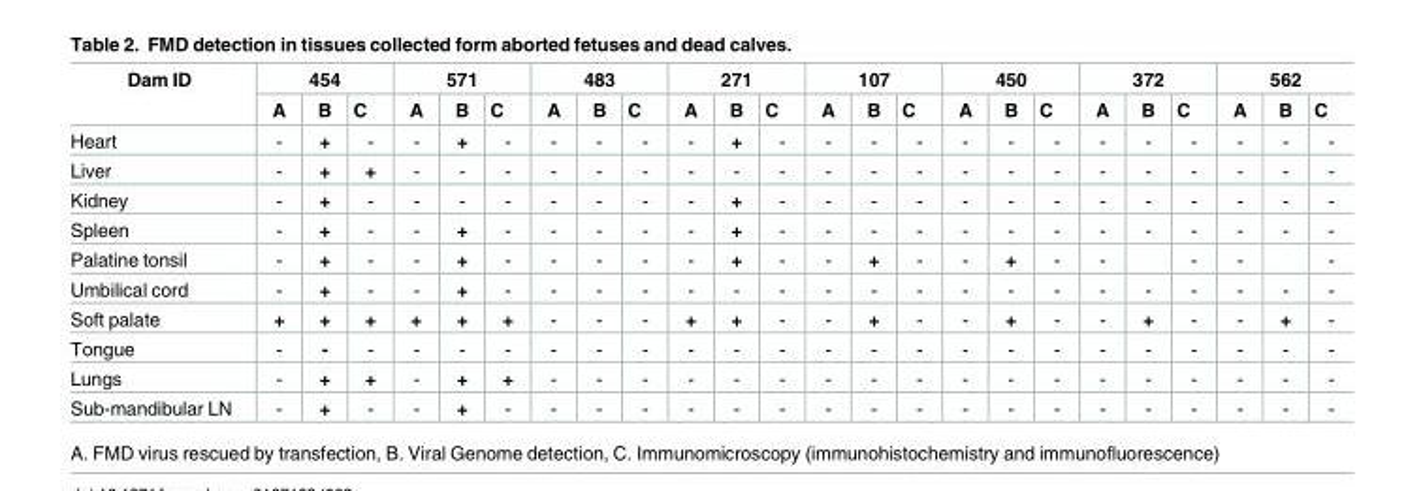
<table><thead><tr><td rowspan="2">Dam ID</td><td colspan="3">454</td><td colspan="3">571</td><td colspan="3">483</td><td colspan="3">271</td><td colspan="3">107</td><td colspan="3">450</td><td colspan="3">372</td><td colspan="3">562</td></tr><tr><td>A</td><td>B</td><td>C</td><td>A</td><td>B</td><td>C</td><td>A</td><td>B</td><td>C</td><td>A</td><td>B</td><td>C</td><td>A</td><td>B</td><td>C</td><td>A</td><td>B</td><td>C</td><td>A</td><td>B</td><td>C</td><td>A</td><td>B</td><td>C</td></tr></thead><tbody><tr><td>Heart</td><td>-</td><td>+</td><td>-</td><td>-</td><td>+</td><td>-</td><td>-</td><td>-</td><td>-</td><td>-</td><td>+</td><td>-</td><td>-</td><td>-</td><td>-</td><td>-</td><td>-</td><td>-</td><td>-</td><td>-</td><td>-</td><td>-</td><td>-</td><td>-</td></tr><tr><td>Liver</td><td>-</td><td>+</td><td>+</td><td>-</td><td>-</td><td>-</td><td>-</td><td>-</td><td>-</td><td>-</td><td>-</td><td>-</td><td>-</td><td>-</td><td>-</td><td>-</td><td>-</td><td>-</td><td>-</td><td>-</td><td>-</td><td>-</td><td>-</td><td>-</td></tr><tr><td>Kidney</td><td>-</td><td>+</td><td>-</td><td>-</td><td>-</td><td>-</td><td>-</td><td>-</td><td>-</td><td>-</td><td>+</td><td>-</td><td>-</td><td>-</td><td>-</td><td>-</td><td>-</td><td>-</td><td>-</td><td>-</td><td>-</td><td>-</td><td>-</td><td>-</td></tr><tr><td>Spleen</td><td>-</td><td>+</td><td>-</td><td>-</td><td>+</td><td>-</td><td>-</td><td>-</td><td>-</td><td>-</td><td>+</td><td>-</td><td>-</td><td>-</td><td>-</td><td>-</td><td>-</td><td>-</td><td>-</td><td>-</td><td>-</td><td>-</td><td>-</td><td>-</td></tr><tr><td>Palatine tonsil</td><td>-</td><td>+</td><td>-</td><td>-</td><td>+</td><td>-</td><td>-</td><td>-</td><td>-</td><td>-</td><td>+</td><td>-</td><td>-</td><td>+</td><td>-</td><td>-</td><td>+</td><td>-</td><td>-</td><td></td><td>-</td><td>-</td><td></td><td>-</td></tr><tr><td>Umbilical cord</td><td>-</td><td>+</td><td>-</td><td>-</td><td>+</td><td>-</td><td>-</td><td>-</td><td>-</td><td>-</td><td>-</td><td>-</td><td>-</td><td>-</td><td>-</td><td>-</td><td>-</td><td>-</td><td>-</td><td>-</td><td>-</td><td>-</td><td>-</td><td>-</td></tr><tr><td>Soft palate</td><td>+</td><td>+</td><td>+</td><td>+</td><td>+</td><td>+</td><td>-</td><td>-</td><td>-</td><td>+</td><td>+</td><td>-</td><td>-</td><td>+</td><td>-</td><td>-</td><td>+</td><td>-</td><td>-</td><td>+</td><td>-</td><td>-</td><td>+</td><td>-</td></tr><tr><td>Tongue</td><td>-</td><td>-</td><td>-</td><td>-</td><td>-</td><td>-</td><td>-</td><td>-</td><td>-</td><td>-</td><td>-</td><td>-</td><td>-</td><td>-</td><td>-</td><td>-</td><td>-</td><td>-</td><td>-</td><td>-</td><td>-</td><td>-</td><td>-</td><td>-</td></tr><tr><td>Lungs</td><td>-</td><td>+</td><td>+</td><td>-</td><td>+</td><td>+</td><td>-</td><td>-</td><td>-</td><td>-</td><td>-</td><td>-</td><td>-</td><td>-</td><td>-</td><td>-</td><td>-</td><td>-</td><td>-</td><td>-</td><td>-</td><td>-</td><td>-</td><td>-</td></tr><tr><td>Sub-mandibular LN</td><td>-</td><td>+</td><td>-</td><td>-</td><td>+</td><td>-</td><td>-</td><td>-</td><td>-</td><td>-</td><td>-</td><td>-</td><td>-</td><td>-</td><td>-</td><td>-</td><td>-</td><td>-</td><td>-</td><td>-</td><td>-</td><td>-</td><td>-</td><td>-</td></tr></tbody></table>